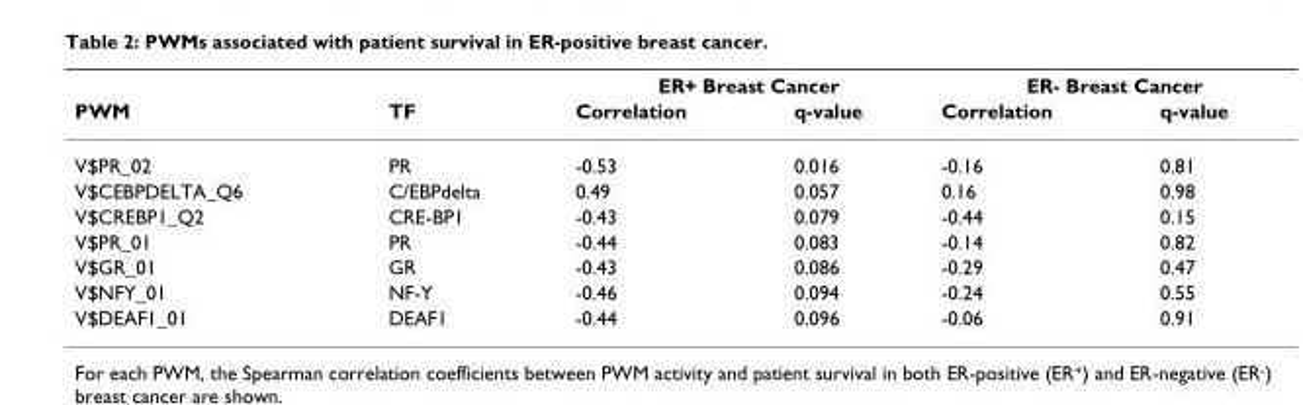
<table><thead><tr><td rowspan="2">PWM</td><td rowspan="2">TF</td><td colspan="2">ER+ Breast Cancer</td><td colspan="2">ER- Breast Cancer</td></tr><tr><td>Correlation</td><td>q-value</td><td>Correlation</td><td>q-value</td></tr></thead><tbody><tr><td>V$PR_02</td><td>PR</td><td>-0.53</td><td>0.016</td><td>-0.16</td><td>0.81</td></tr><tr><td>V$CEBPDELTA_Q6</td><td>C/EBPdelta</td><td>0.49</td><td>0.057</td><td>0.16</td><td>0.98</td></tr><tr><td>V$CREBP1_Q2</td><td>CRE-BP1</td><td>-0.43</td><td>0.079</td><td>-0.44</td><td>0.15</td></tr><tr><td>V$PR_01</td><td>PR</td><td>-0.44</td><td>0.083</td><td>-0.14</td><td>0.82</td></tr><tr><td>V$GR_01</td><td>GR</td><td>-0.43</td><td>0.086</td><td>-0.29</td><td>0.47</td></tr><tr><td>V$NFY_01</td><td>NF-Y</td><td>-0.46</td><td>0.094</td><td>-0.24</td><td>0.55</td></tr><tr><td>V$DEAF1_01</td><td>DEAF1</td><td>-0.44</td><td>0.096</td><td>-0.06</td><td>0.91</td></tr></tbody></table>